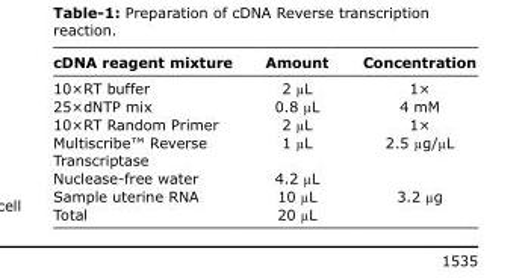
<table><thead><tr><td>cDNA reagent mixture</td><td>Amount</td><td>Concentration</td></tr></thead><tbody><tr><td>10×RT buffer</td><td>2 µL</td><td>1×</td></tr><tr><td>25×dNTP mix</td><td>0.8 µL</td><td>4 mM</td></tr><tr><td>10×RT Random Primer</td><td>2 µL</td><td>1×</td></tr><tr><td>Multiscribe™ Reverse Transcriptase</td><td>1 µL</td><td>2.5 µg/µL</td></tr><tr><td>Nuclease-free water</td><td>4.2 µL</td><td></td></tr><tr><td>Sample uterine RNA</td><td>10 µL</td><td>3.2 µg</td></tr><tr><td>Total</td><td>20 µL</td><td></td></tr></tbody></table>